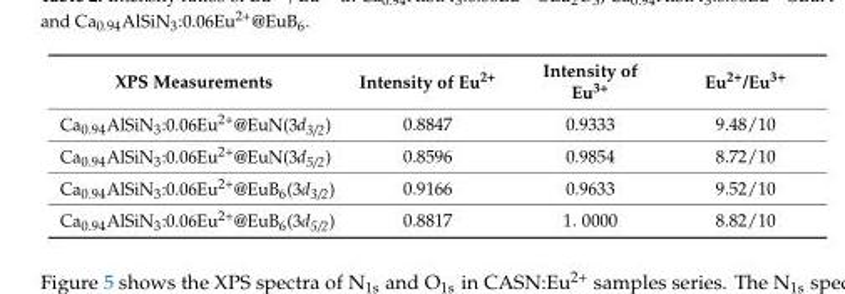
<table><thead><tr><td>XPS Measurements</td><td>Intensity of Eu<sup>2+</sup></td><td>Intensity of Eu<sup>3+</sup></td><td>Eu<sup>2+</sup>/Eu<sup>3+</sup></td></tr></thead><tbody><tr><td>Ca<sub>0.94</sub>AlSiN<sub>3</sub>:0.06Eu<sup>2+</sup>@EuN(3d<sub>3/2</sub>)</td><td>0.8847</td><td>0.9333</td><td>9.48/10</td></tr><tr><td>Ca<sub>0.94</sub>AlSiN<sub>3</sub>:0.06Eu<sup>2+</sup>@EuN(3d<sub>5/2</sub>)</td><td>0.8596</td><td>0.9854</td><td>8.72/10</td></tr><tr><td>Ca<sub>0.94</sub>AlSiN<sub>3</sub>:0.06Eu<sup>2+</sup>@EuB<sub>6</sub>(3d<sub>3/2</sub>)</td><td>0.9166</td><td>0.9633</td><td>9.52/10</td></tr><tr><td>Ca<sub>0.94</sub>AlSiN<sub>3</sub>:0.06Eu<sup>2+</sup>@EuB<sub>6</sub>(3d<sub>5/2</sub>)</td><td>0.8817</td><td>1. 0000</td><td>8.82/10</td></tr></tbody></table>